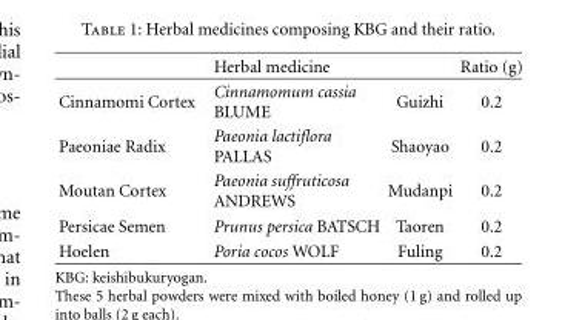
<table><thead><tr><td></td><td>Herbal medicine</td><td></td><td>Ratio (g)</td></tr></thead><tbody><tr><td>Cinnamomi Cortex</td><td>Cinnamomum cassia BLUME</td><td>Guizhi</td><td>0.2</td></tr><tr><td>Paeoniae Radix</td><td>Paeonia lactiflora PALLAS</td><td>Shaoyao</td><td>0.2</td></tr><tr><td>Moutan Cortex</td><td>Paeonia suffruticosa ANDREWS</td><td>Mudanpi</td><td>0.2</td></tr><tr><td>Persicae Semen</td><td>Prunus persica BATSCH</td><td>Taoren</td><td>0.2</td></tr><tr><td>Hoelen</td><td>Poria cocos WOLF</td><td>Fuling</td><td>0.2</td></tr></tbody></table>